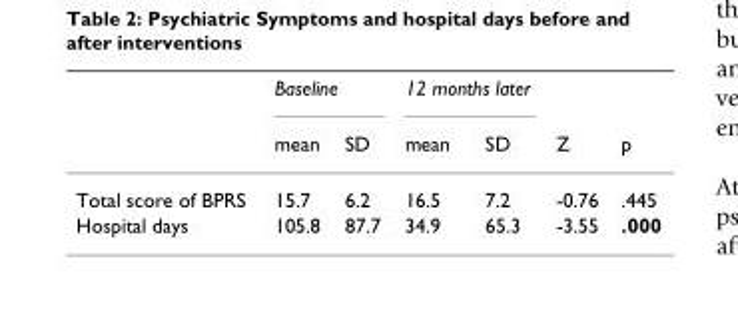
<table><thead><tr><td rowspan="2"></td><td colspan="2">Baseline</td><td colspan="2">12 months later</td><td rowspan="2">Z</td><td rowspan="2">p</td></tr><tr><td>mean</td><td>SD</td><td>mean</td><td>SD</td></tr></thead><tbody><tr><td>Total score of BPRS</td><td>15.7</td><td>6.2</td><td>16.5</td><td>7.2</td><td>-0.76</td><td>.445</td></tr><tr><td>Hospital days</td><td>105.8</td><td>87.7</td><td>34.9</td><td>65.3</td><td>-3.55</td><td>.000</td></tr></tbody></table>